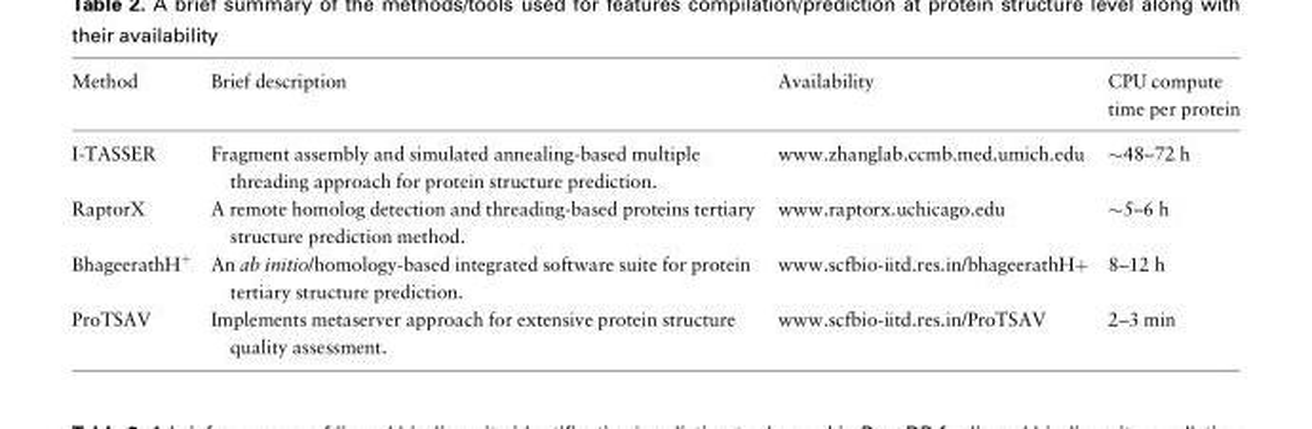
<table><thead><tr><td>Method</td><td>Brief description</td><td>Availability</td><td>CPU compute time per protein</td></tr></thead><tbody><tr><td>I-TASSER</td><td>Fragment assembly and simulated annealing-based multiple threading approach for protein structure prediction.</td><td>www.zhanglab.ccmb.med.umich.edu</td><td>∼48–72 h</td></tr><tr><td>RaptorX</td><td>A remote homolog detection and threading-based proteins tertiary structure prediction method.</td><td>www.raptorx.uchicago.edu</td><td>∼5–6 h</td></tr><tr><td>BhageerathH<sup>+</sup></td><td>An ab initio/homology-based integrated software suite for protein tertiary structure prediction.</td><td>www.scfbio-iitd.res.in/bhageerathH+</td><td>8–12 h</td></tr><tr><td>ProTSAV</td><td>Implements metaserver approach for extensive protein structure quality assessment.</td><td>www.scfbio-iitd.res.in/ProTSAV</td><td>2–3 min</td></tr></tbody></table>